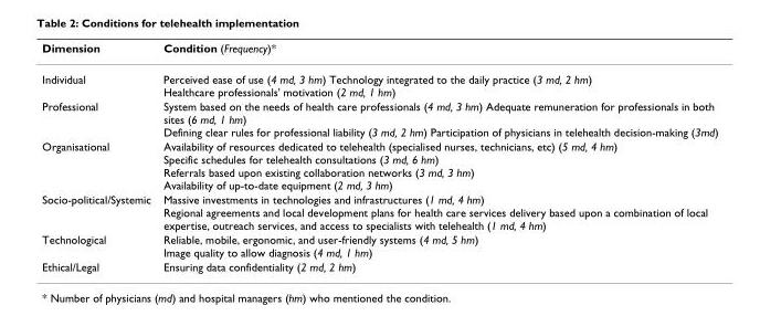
<table><thead><tr><td>Dimension</td><td>Condition (Frequency)*</td></tr></thead><tbody><tr><td>Individual</td><td>Perceived ease of use (4 md, 3 hm) Technology integrated to the daily practice (3 md, 2 hm) Healthcare professionals&#x27; motivation (2 md, 1 hm)</td></tr><tr><td>Professional</td><td>System based on the needs of health care professionals (4 md, 3 hm) Adequate remuneration for professionals in both sites (6 md, 1 hm) Defining clear rules for professional liability (3 md, 2 hm) Participation of physicians in telehealth decision-making (3md)</td></tr><tr><td>Organisational</td><td>Availability of resources dedicated to telehealth (specialised nurses, technicians, etc) (5 md, 4 hm) Specific schedules for telehealth consultations (3 md, 6 hm) Referrals based upon existing collaboration networks (3 md, 3 hm) Availability of up-to-date equipment (2 md, 3 hm)</td></tr><tr><td>Socio-political/Systemic</td><td>Massive investments in technologies and infrastructures (1 md, 4 hm) Regional agreements and local development plans for health care services delivery based upon a combination of local expertise, outreach services, and access to specialists with telehealth (1 md, 4 hm)</td></tr><tr><td>Technological</td><td>Reliable, mobile, ergonomic, and user-friendly systems (4 md, 5 hm) Image quality to allow diagnosis (4 md, 1 hm)</td></tr><tr><td>Ethical/Legal</td><td>Ensuring data confidentiality (2 md, 2 hm)</td></tr></tbody></table>